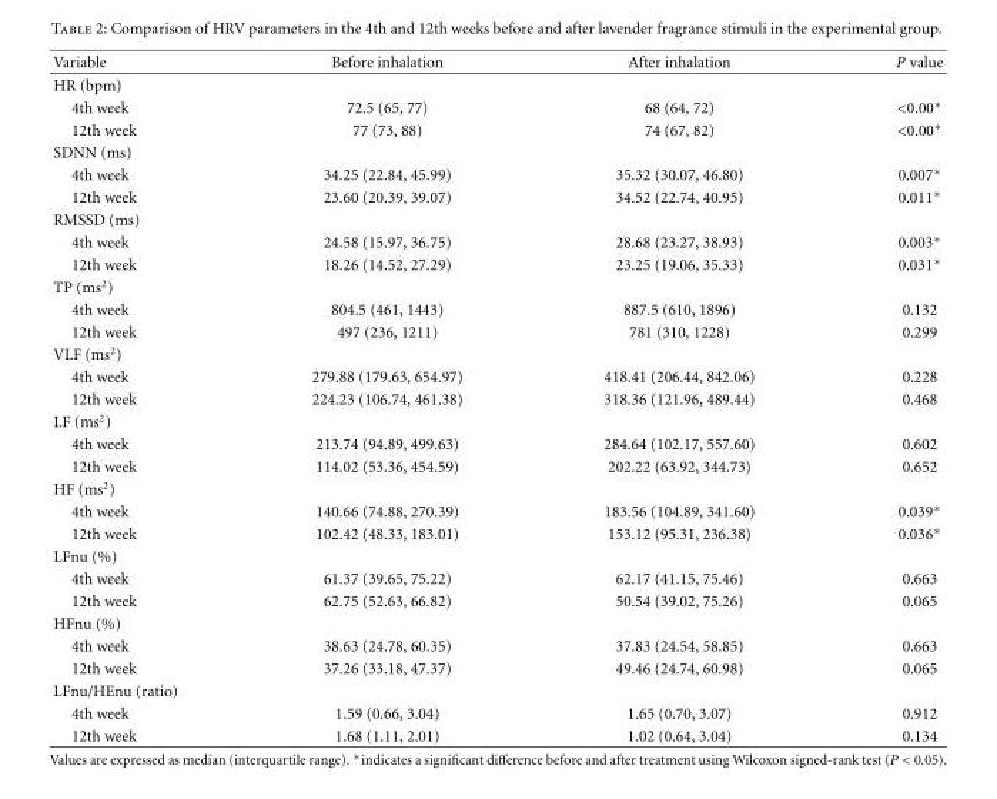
<table><thead><tr><td>Variable</td><td>Before inhalation</td><td>After inhalation</td><td>P value</td></tr></thead><tbody><tr><td colspan="4">HR (bpm)</td></tr><tr><td>4th week</td><td>72.5 (65, 77)</td><td>68 (64, 72)</td><td>&lt;0.00∗</td></tr><tr><td>12th week</td><td>77 (73, 88)</td><td>74 (67, 82)</td><td>&lt;0.00∗</td></tr><tr><td colspan="4">SDNN (ms)</td></tr><tr><td>4th week</td><td>34.25 (22.84, 45.99)</td><td>35.32 (30.07, 46.80)</td><td>0.007∗</td></tr><tr><td>12th week</td><td>23.60 (20.39, 39.07)</td><td>34.52 (22.74, 40.95)</td><td>0.011∗</td></tr><tr><td colspan="4">RMSSD (ms)</td></tr><tr><td>4th week</td><td>24.58 (15.97, 36.75)</td><td>28.68 (23.27, 38.93)</td><td>0.003∗</td></tr><tr><td>12th week</td><td>18.26 (14.52, 27.29)</td><td>23.25 (19.06, 35.33)</td><td>0.031∗</td></tr><tr><td colspan="4">TP (ms<sup>2</sup>)</td></tr><tr><td>4th week</td><td>804.5 (461, 1443)</td><td>887.5 (610, 1896)</td><td>0.132</td></tr><tr><td>12th week</td><td>497 (236, 1211)</td><td>781 (310, 1228)</td><td>0.299</td></tr><tr><td colspan="4">VLF (ms<sup>2</sup>)</td></tr><tr><td>4th week</td><td>279.88 (179.63, 654.97)</td><td>418.41 (206.44, 842.06)</td><td>0.228</td></tr><tr><td>12th week</td><td>224.23 (106.74, 461.38)</td><td>318.36 (121.96, 489.44)</td><td>0.468</td></tr><tr><td colspan="4">LF (ms<sup>2</sup>)</td></tr><tr><td>4th week</td><td>213.74 (94.89, 499.63)</td><td>284.64 (102.17, 557.60)</td><td>0.602</td></tr><tr><td>12th week</td><td>114.02 (53.36, 454.59)</td><td>202.22 (63.92, 344.73)</td><td>0.652</td></tr><tr><td colspan="4">HF (ms<sup>2</sup>)</td></tr><tr><td>4th week</td><td>140.66 (74.88, 270.39)</td><td>183.56 (104.89, 341.60)</td><td>0.039∗</td></tr><tr><td>12th week</td><td>102.42 (48.33, 183.01)</td><td>153.12 (95.31, 236.38)</td><td>0.036∗</td></tr><tr><td colspan="4">LFnu (%)</td></tr><tr><td>4th week</td><td>61.37 (39.65, 75.22)</td><td>62.17 (41.15, 75.46)</td><td>0.663</td></tr><tr><td>12th week</td><td>62.75 (52.63, 66.82)</td><td>50.54 (39.02, 75.26)</td><td>0.065</td></tr><tr><td colspan="4">HFnu (%)</td></tr><tr><td>4th week</td><td>38.63 (24.78, 60.35)</td><td>37.83 (24.54, 58.85)</td><td>0.663</td></tr><tr><td>12th week</td><td>37.26 (33.18, 47.37)</td><td>49.46 (24.74, 60.98)</td><td>0.065</td></tr><tr><td colspan="4">LFnu/HEnu (ratio)</td></tr><tr><td>4th week</td><td>1.59 (0.66, 3.04)</td><td>1.65 (0.70, 3.07)</td><td>0.912</td></tr><tr><td>12th week</td><td>1.68 (1.11, 2.01)</td><td>1.02 (0.64, 3.04)</td><td>0.134</td></tr></tbody></table>